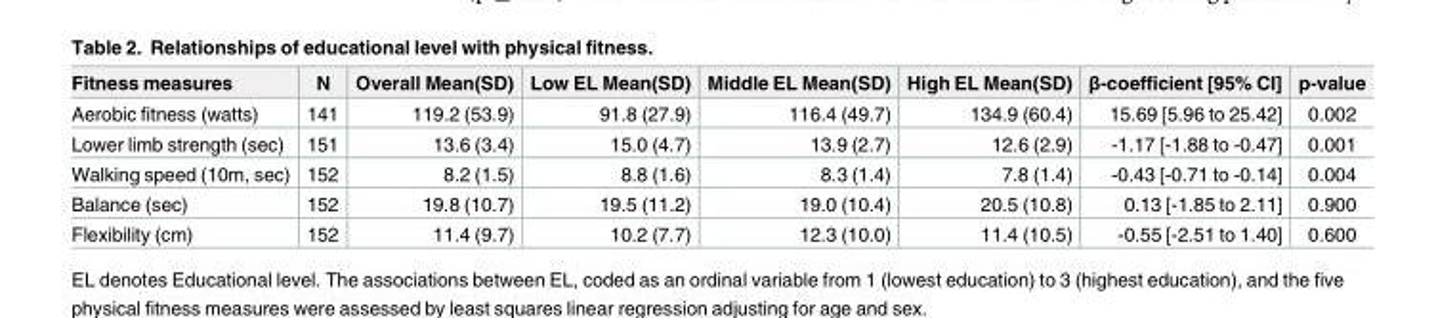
<table><thead><tr><td>Fitness measures</td><td>N</td><td>Overall Mean(SD)</td><td>Low EL Mean(SD)</td><td>Middle EL Mean(SD)</td><td>High EL Mean(SD)</td><td>β-coefficient [95% CI]</td><td>p-value</td></tr></thead><tbody><tr><td>Aerobic fitness (watts)</td><td>141</td><td>119.2 (53.9)</td><td>91.8 (27.9)</td><td>116.4 (49.7)</td><td>134.9 (60.4)</td><td>15.69 [5.96 to 25.42]</td><td>0.002</td></tr><tr><td>Lower limb strength (sec)</td><td>151</td><td>13.6 (3.4)</td><td>15.0 (4.7)</td><td>13.9 (2.7)</td><td>12.6 (2.9)</td><td>-1.17 [-1.88 to -0.47]</td><td>0.001</td></tr><tr><td>Walking speed (10m, sec)</td><td>152</td><td>8.2 (1.5)</td><td>8.8 (1.6)</td><td>8.3 (1.4)</td><td>7.8 (1.4)</td><td>-0.43 [-0.71 to -0.14]</td><td>0.004</td></tr><tr><td>Balance (sec)</td><td>152</td><td>19.8 (10.7)</td><td>19.5 (11.2)</td><td>19.0 (10.4)</td><td>20.5 (10.8)</td><td>0.13 [-1.85 to 2.11]</td><td>0.900</td></tr><tr><td>Flexibility (cm)</td><td>152</td><td>11.4 (9.7)</td><td>10.2 (7.7)</td><td>12.3 (10.0)</td><td>11.4 (10.5)</td><td>-0.55 [-2.51 to 1.40]</td><td>0.600</td></tr></tbody></table>